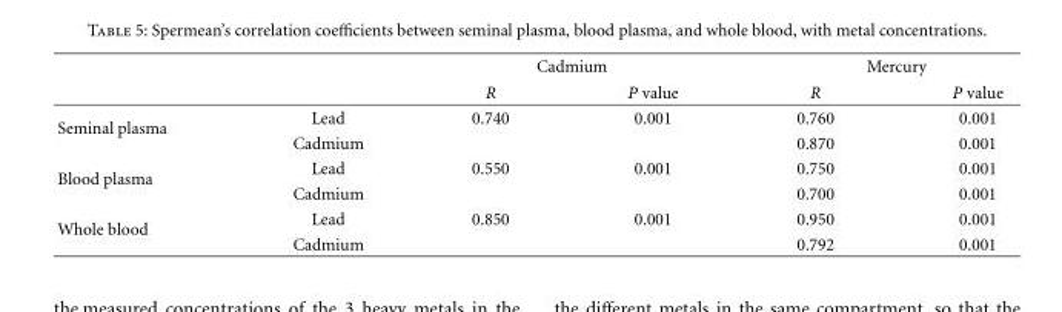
<table><thead><tr><td rowspan="2"></td><td rowspan="2"></td><td colspan="2">Cadmium</td><td colspan="2">Mercury</td></tr><tr><td>R</td><td>P value</td><td>R</td><td>P value</td></tr></thead><tbody><tr><td rowspan="2">Seminal plasma</td><td>Lead</td><td>0.740</td><td>0.001</td><td>0.760</td><td>0.001</td></tr><tr><td>Cadmium</td><td></td><td></td><td>0.870</td><td>0.001</td></tr><tr><td rowspan="2">Blood plasma</td><td>Lead</td><td>0.550</td><td>0.001</td><td>0.750</td><td>0.001</td></tr><tr><td>Cadmium</td><td></td><td></td><td>0.700</td><td>0.001</td></tr><tr><td rowspan="2">Whole blood</td><td>Lead</td><td>0.850</td><td>0.001</td><td>0.950</td><td>0.001</td></tr><tr><td>Cadmium</td><td></td><td></td><td>0.792</td><td>0.001</td></tr></tbody></table>